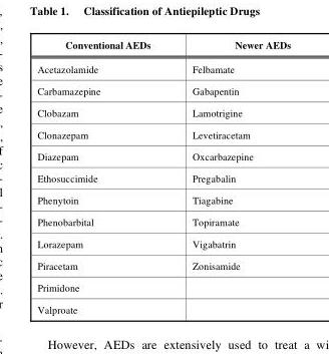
<table><thead><tr><td>Conventional AEDs</td><td>Newer AEDs</td></tr></thead><tbody><tr><td>Acetazolamide</td><td>Felbamate</td></tr><tr><td>Carbamazepine</td><td>Gabapentin</td></tr><tr><td>Clobazam</td><td>Lamotrigine</td></tr><tr><td>Clonazepam</td><td>Levetiracetam</td></tr><tr><td>Diazepam</td><td>Oxcarbazepine</td></tr><tr><td>Ethosuccimide</td><td>Pregabalin</td></tr><tr><td>Phenytoin</td><td>Tiagabine</td></tr><tr><td>Phenobarbital</td><td>Topiramate</td></tr><tr><td>Lorazepam</td><td>Vigabatrin</td></tr><tr><td>Piracetam</td><td>Zonisamide</td></tr><tr><td colspan="2">Primidone</td></tr><tr><td>Valproate</td><td></td></tr></tbody></table>